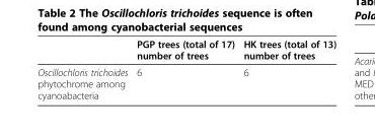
<table><thead><tr><td></td><td>PGP trees (total of 17) number of trees</td><td>HK trees (total of 13) number of trees</td></tr></thead><tbody><tr><td>Oscillochloris trichoides phytochrome among cyanoabacteria</td><td>6</td><td>6</td></tr></tbody></table>